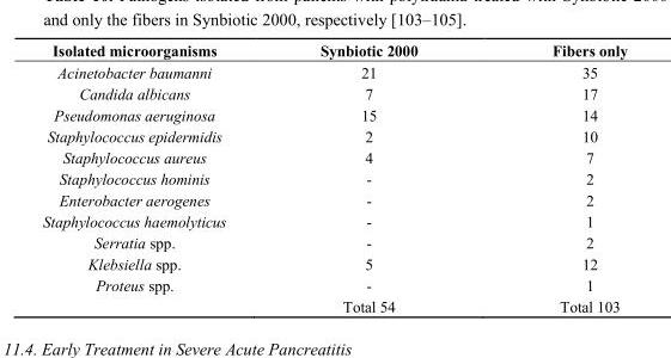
<table><thead><tr><td>Isolated microorganisms</td><td>Synbiotic 2000</td><td>Fibers only</td></tr></thead><tbody><tr><td>Acinetobacter baumanni</td><td>21</td><td>35</td></tr><tr><td>Candida albicans</td><td>7</td><td>17</td></tr><tr><td>Pseudomonas aeruginosa</td><td>15</td><td>14</td></tr><tr><td>Staphylococcus epidermidis</td><td>2</td><td>10</td></tr><tr><td>Staphylococcus aureus</td><td>4</td><td>7</td></tr><tr><td>Staphylococcus hominis</td><td>-</td><td>2</td></tr><tr><td>Enterobacter aerogenes</td><td>-</td><td>2</td></tr><tr><td>Staphylococcus haemolyticus</td><td>-</td><td>1</td></tr><tr><td>Serratia spp.</td><td>-</td><td>2</td></tr><tr><td>Klebsiella spp.</td><td>5</td><td>12</td></tr><tr><td rowspan="2">Proteus spp.</td><td>-</td><td>1</td></tr><tr><td>Total 54</td><td>Total 103</td></tr></tbody></table>